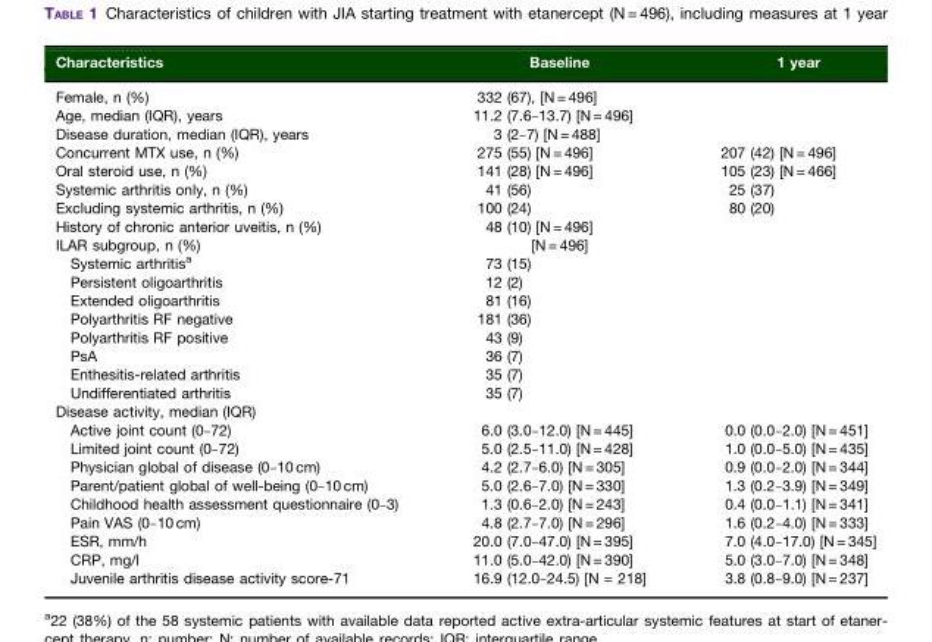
<table><thead><tr><td>Characteristics</td><td>Baseline</td><td>1 year</td></tr></thead><tbody><tr><td>Female, n (%)</td><td>332 (67), [N = 496]</td><td></td></tr><tr><td>Age, median (IQR), years</td><td>11.2 (7.6–13.7) [N = 496]</td><td></td></tr><tr><td>Disease duration, median (IQR), years</td><td>3 (2–7) [N = 488]</td><td></td></tr><tr><td>Concurrent MTX use, n (%)</td><td>275 (55) [N = 496]</td><td>207 (42) [N = 496]</td></tr><tr><td>Oral steroid use, n (%)</td><td>141 (28) [N = 496]</td><td>105 (23) [N = 466]</td></tr><tr><td>Systemic arthritis only, n (%)</td><td>41 (56)</td><td>25 (37)</td></tr><tr><td>Excluding systemic arthritis, n (%)</td><td>100 (24)</td><td>80 (20)</td></tr><tr><td>History of chronic anterior uveitis, n (%)</td><td>48 (10) [N = 496]</td><td></td></tr><tr><td>ILAR subgroup, n (%)</td><td>[N = 496]</td><td></td></tr><tr><td>Systemic arthritis<sup>a</sup></td><td>73 (15)</td><td></td></tr><tr><td>Persistent oligoarthritis</td><td>12 (2)</td><td></td></tr><tr><td>Extended oligoarthritis</td><td>81 (16)</td><td></td></tr><tr><td>Polyarthritis RF negative</td><td>181 (36)</td><td></td></tr><tr><td>Polyarthritis RF positive</td><td>43 (9)</td><td></td></tr><tr><td>PsA</td><td>36 (7)</td><td></td></tr><tr><td>Enthesitis-related arthritis</td><td>35 (7)</td><td></td></tr><tr><td>Undifferentiated arthritis</td><td>35 (7)</td><td></td></tr><tr><td colspan="3">Disease activity, median (IQR)</td></tr><tr><td>Active joint count (0–72)</td><td>6.0 (3.0–12.0) [N = 445]</td><td>0.0 (0.0–2.0) [N = 451]</td></tr><tr><td>Limited joint count (0–72)</td><td>5.0 (2.5–11.0) [N = 428]</td><td>1.0 (0.0–5.0) [N = 435]</td></tr><tr><td>Physician global of disease (0–10 cm)</td><td>4.2 (2.7–6.0) [N = 305]</td><td>0.9 (0.0–2.0) [N = 344]</td></tr><tr><td>Parent/patient global of well-being (0–10 cm)</td><td>5.0 (2.6–7.0) [N = 330]</td><td>1.3 (0.2–3.9) [N = 349]</td></tr><tr><td>Childhood health assessment questionnaire (0–3)</td><td>1.3 (0.6–2.0) [N = 243]</td><td>0.4 (0.0–1.1) [N = 341]</td></tr><tr><td>Pain VAS (0–10 cm)</td><td>4.8 (2.7–7.0) [N = 296]</td><td>1.6 (0.2–4.0) [N = 333]</td></tr><tr><td>ESR, mm/h</td><td>20.0 (7.0–47.0) [N = 395]</td><td>7.0 (4.0–17.0) [N = 345]</td></tr><tr><td>CRP, mg/l</td><td>11.0 (5.0–42.0) [N = 390]</td><td>5.0 (3.0–7.0) [N = 348]</td></tr><tr><td>Juvenile arthritis disease activity score-71</td><td>16.9 (12.0–24.5) [N = 218]</td><td>3.8 (0.8–9.0) [N = 237]</td></tr></tbody></table>